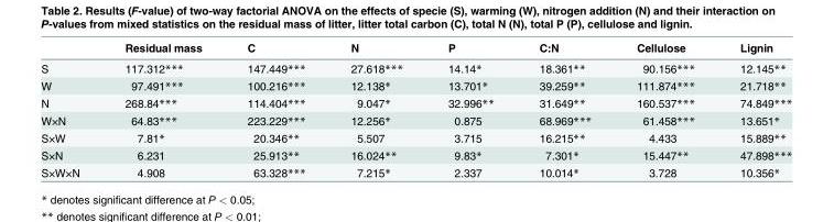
<table><thead><tr><td></td><td>Residual mass</td><td>C</td><td>N</td><td>P</td><td>C:N</td><td>Cellulose</td><td>Lignin</td></tr></thead><tbody><tr><td>S</td><td>117.312***</td><td>147.449***</td><td>27.618***</td><td>14.14*</td><td>18.361**</td><td>90.156***</td><td>12.145**</td></tr><tr><td>W</td><td>97.491***</td><td>100.216***</td><td>12.138*</td><td>13.701*</td><td>39.259**</td><td>111.874***</td><td>21.718**</td></tr><tr><td>N</td><td>268.84***</td><td>114.404***</td><td>9.047*</td><td>32.996**</td><td>31.649**</td><td>160.537***</td><td>74.849***</td></tr><tr><td>W×N</td><td>64.83***</td><td>223.229***</td><td>12.256*</td><td>0.875</td><td>68.969***</td><td>61.458***</td><td>13.651*</td></tr><tr><td>S×W</td><td>7.81*</td><td>20.346**</td><td>5.507</td><td>3.715</td><td>16.215**</td><td>4.433</td><td>15.889**</td></tr><tr><td>S×N</td><td>6.231</td><td>25.913**</td><td>16.024**</td><td>9.83*</td><td>7.301*</td><td>15.447**</td><td>47.898***</td></tr><tr><td>S×W×N</td><td>4.908</td><td>63.328***</td><td>7.215*</td><td>2.337</td><td>10.014*</td><td>3.728</td><td>10.356*</td></tr></tbody></table>